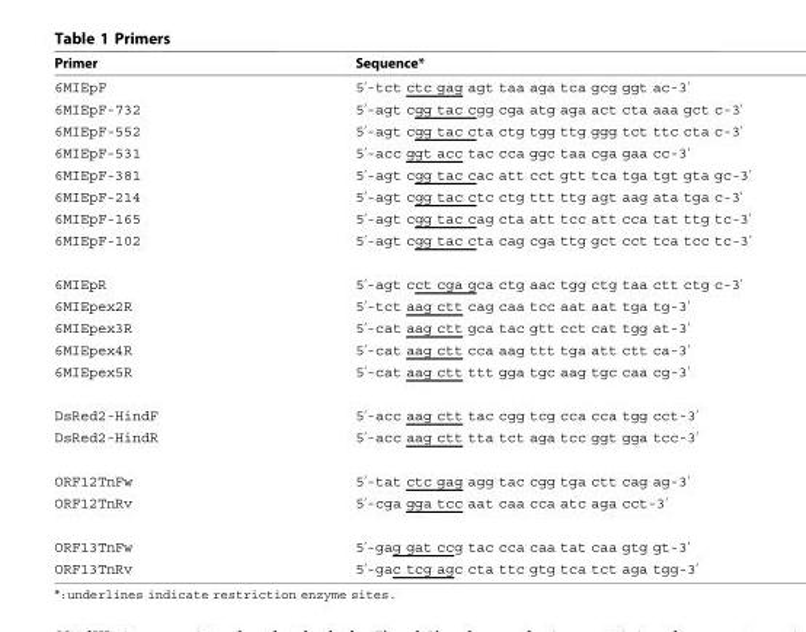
<table><thead><tr><td>Primer</td><td>Sequence*</td></tr></thead><tbody><tr><td>6MIEpF</td><td>5’-tct ctc gag agt taa aga tca gcg ggt ac-3’</td></tr><tr><td>6MIEpF-732</td><td>5’-agt cgg tac cgg cga atg aga act cta aaa gct c-3’</td></tr><tr><td>6MIEpF-552</td><td>5’-agt cgg tac cta ctg tgg ttg ggg tct ttc cta c-3’</td></tr><tr><td>6MIEpF-531</td><td>5’-acc ggt acc tac cca ggc taa cga gaa cc-3’</td></tr><tr><td>6MIEpF-381</td><td>5’-agt cgg tac cac att cct gtt tca tga tgt gta gc-3’</td></tr><tr><td>6MIEpF-214</td><td>5’-agt cgg tac ctc ctg ttt ttg agt aag ata tga c-3’</td></tr><tr><td>6MIEpF-165</td><td>5’-agt cgg tac cag cta att tcc att cca tat ttg tc-3’</td></tr><tr><td>6MIEpF-102</td><td>5’-agt cgg tac cta cag cga ttg gct cct tca tcc tc-3’</td></tr><tr><td>6MIEpR</td><td>5’-agt cct cga gca ctg aac tgg ctg taa ctt ctg c-3’</td></tr><tr><td>6MIEpex2R</td><td>5’-tct aag ctt cag caa tcc aat aat tga tg-3’</td></tr><tr><td>6MIEpex3R</td><td>5’-cat aag ctt gca tac gtt cct cat tgg at-3’</td></tr><tr><td>6MIEpex4R</td><td>5’-cat aag ctt cca aag ttt tga att ctt ca-3’</td></tr><tr><td>6MIEpex5R</td><td>5’-cat aag ctt ttt gga tgc aag tgc caa cg-3’</td></tr><tr><td>DsRed2-HindF</td><td>5’-acc aag ctt tac cgg tcg cca cca tgg cct-3’</td></tr><tr><td>DsRed2-HindR</td><td>5’-acc aag ctt tta tct aga tcc ggt gga tcc-3’</td></tr><tr><td>ORF12TnFw</td><td>5’-tat ctc gag agg tac cgg tga ctt cag ag-3’</td></tr><tr><td>ORF12TnRv</td><td>5’-cga gga tcc aat caa cca atc aga cct-3’</td></tr><tr><td>ORF13TnFw</td><td>5’-gag gat ccg tac cca caa tat caa gtg gt-3’</td></tr><tr><td>ORF13TnRv</td><td>5’-gac tcg agc cta ttc gtg tca tct aga tgg-3’</td></tr></tbody></table>